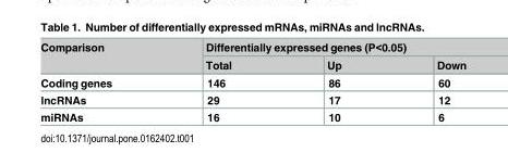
<table><thead><tr><td rowspan="2">Comparison</td><td colspan="3">Differentially expressed genes (P&lt;0.05)</td></tr><tr><td>Total</td><td>Up</td><td>Down</td></tr></thead><tbody><tr><td>Coding genes</td><td>146</td><td>86</td><td>60</td></tr><tr><td>lncRNAs</td><td>29</td><td>17</td><td>12</td></tr><tr><td>miRNAs</td><td>16</td><td>10</td><td>6</td></tr></tbody></table>